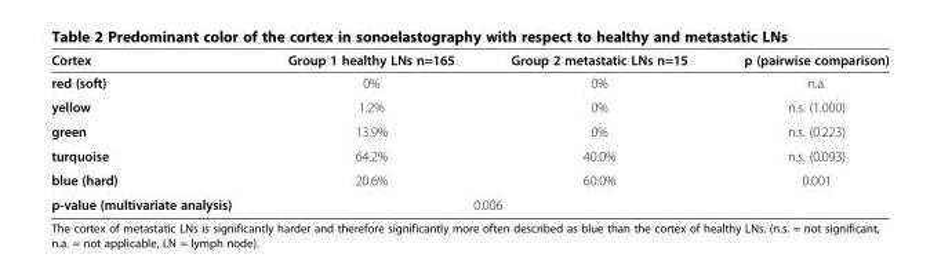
<table><thead><tr><td>Cortex</td><td>Group 1 healthy LNs n=165</td><td>Group 2 metastatic LNs n=15</td><td>p (pairwise comparison)</td></tr></thead><tbody><tr><td>red (soft)</td><td>0%</td><td>0%</td><td>n.a.</td></tr><tr><td>yellow</td><td>1.2%</td><td>0%</td><td>n.s. (1.000)</td></tr><tr><td>green</td><td>13.9%</td><td>0%</td><td>n.s. (0.223)</td></tr><tr><td>turquoise</td><td>64.2%</td><td>40.0%</td><td>n.s. (0.093)</td></tr><tr><td>blue (hard)</td><td>20.6%</td><td>60.0%</td><td>0.001</td></tr><tr><td>p-value (multivariate analysis)</td><td colspan="2">0.006</td><td></td></tr></tbody></table>